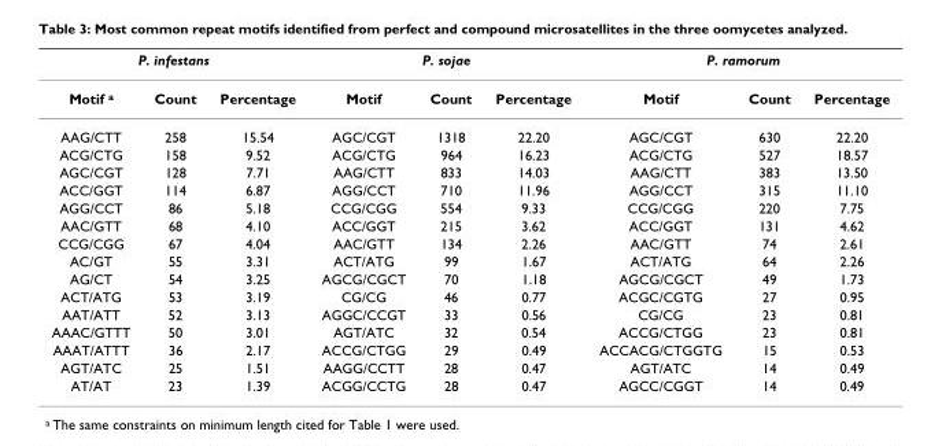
<table><thead><tr><td colspan="3">P. infestans</td><td colspan="3">P. sojae</td><td colspan="3">P. ramorum</td></tr><tr><td>Motif a</td><td>Count</td><td>Percentage</td><td>Motif</td><td>Count</td><td>Percentage</td><td>Motif</td><td>Count</td><td>Percentage</td></tr></thead><tbody><tr><td>AAG/CTT</td><td>258</td><td>15.54</td><td>AGC/CGT</td><td>1318</td><td>22.20</td><td>AGC/CGT</td><td>630</td><td>22.20</td></tr><tr><td>ACG/CTG</td><td>158</td><td>9.52</td><td>ACG/CTG</td><td>964</td><td>16.23</td><td>ACG/CTG</td><td>527</td><td>18.57</td></tr><tr><td>AGC/CGT</td><td>128</td><td>7.71</td><td>AAG/CTT</td><td>833</td><td>14.03</td><td>AAG/CTT</td><td>383</td><td>13.50</td></tr><tr><td>ACC/GGT</td><td>114</td><td>6.87</td><td>AGG/CCT</td><td>710</td><td>11.96</td><td>AGG/CCT</td><td>315</td><td>11.10</td></tr><tr><td>AGG/CCT</td><td>86</td><td>5.18</td><td>CCG/CGG</td><td>554</td><td>9.33</td><td>CCG/CGG</td><td>220</td><td>7.75</td></tr><tr><td>AAC/GTT</td><td>68</td><td>4.10</td><td>ACC/GGT</td><td>215</td><td>3.62</td><td>ACC/GGT</td><td>131</td><td>4.62</td></tr><tr><td>CCG/CGG</td><td>67</td><td>4.04</td><td>AAC/GTT</td><td>134</td><td>2.26</td><td>AAC/GTT</td><td>74</td><td>2.61</td></tr><tr><td>AC/GT</td><td>55</td><td>3.31</td><td>ACT/ATG</td><td>99</td><td>1.67</td><td>ACT/ATG</td><td>64</td><td>2.26</td></tr><tr><td>AG/CT</td><td>54</td><td>3.25</td><td>AGCG/CGCT</td><td>70</td><td>1.18</td><td>AGCG/CGCT</td><td>49</td><td>1.73</td></tr><tr><td>ACT/ATG</td><td>53</td><td>3.19</td><td>CG/CG</td><td>46</td><td>0.77</td><td>ACGC/CGTG</td><td>27</td><td>0.95</td></tr><tr><td>AAT/ATT</td><td>52</td><td>3.13</td><td>AGGC/CCGT</td><td>33</td><td>0.56</td><td>CG/CG</td><td>23</td><td>0.81</td></tr><tr><td>AAAC/GTTT</td><td>50</td><td>3.01</td><td>AGT/ATC</td><td>32</td><td>0.54</td><td>ACCG/CTGG</td><td>23</td><td>0.81</td></tr><tr><td>AAAT/ATTT</td><td>36</td><td>2.17</td><td>ACCG/CTGG</td><td>29</td><td>0.49</td><td>ACCACG/CTGGTG</td><td>15</td><td>0.53</td></tr><tr><td>AGT/ATC</td><td>25</td><td>1.51</td><td>AAGG/CCTT</td><td>28</td><td>0.47</td><td>AGT/ATC</td><td>14</td><td>0.49</td></tr><tr><td>AT/AT</td><td>23</td><td>1.39</td><td>ACGG/CCTG</td><td>28</td><td>0.47</td><td>AGCC/CGGT</td><td>14</td><td>0.49</td></tr></tbody></table>